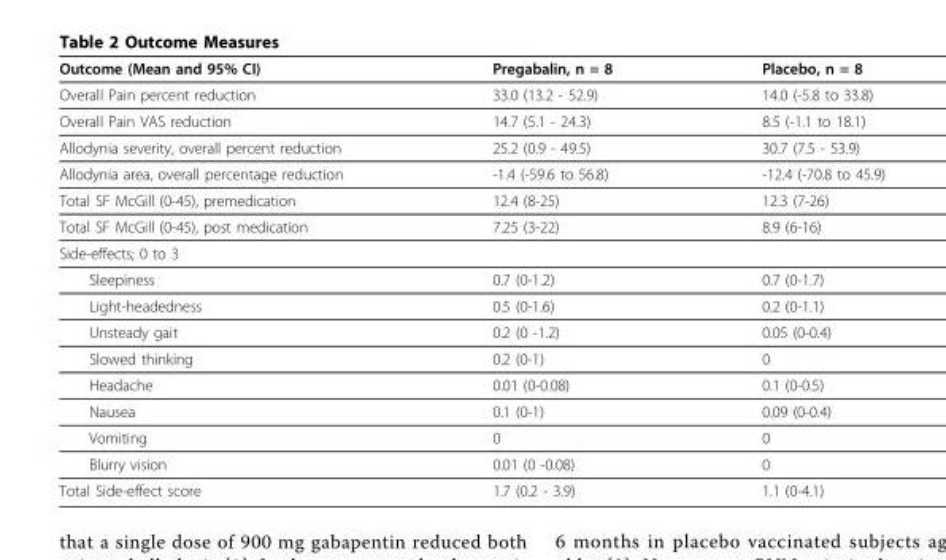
<table><thead><tr><td>Outcome (Mean and 95% CI)</td><td>Pregabalin, n = 8</td><td>Placebo, n = 8</td></tr></thead><tbody><tr><td>Overall Pain percent reduction</td><td>33.0 (13.2 - 52.9)</td><td>14.0 (-5.8 to 33.8)</td></tr><tr><td>Overall Pain VAS reduction</td><td>14.7 (5.1 - 24.3)</td><td>8.5 (-1.1 to 18.1)</td></tr><tr><td>Allodynia severity, overall percent reduction</td><td>25.2 (0.9 - 49.5)</td><td>30.7 (7.5 - 53.9)</td></tr><tr><td>Allodynia area, overall percentage reduction</td><td>-1.4 (-59.6 to 56.8)</td><td>-12.4 (-70.8 to 45.9)</td></tr><tr><td>Total SF McGill (0-45), premedication</td><td>12.4 (8-25)</td><td>12.3 (7-26)</td></tr><tr><td>Total SF McGill (0-45), post medication</td><td>7.25 (3-22)</td><td>8.9 (6-16)</td></tr><tr><td colspan="3">Side-effects; 0 to 3</td></tr><tr><td>Sleepiness</td><td>0.7 (0-1.2)</td><td>0.7 (0-1.7)</td></tr><tr><td>Light-headedness</td><td>0.5 (0-1.6)</td><td>0.2 (0-1.1)</td></tr><tr><td>Unsteady gait</td><td>0.2 (0 -1.2)</td><td>0.05 (0-0.4)</td></tr><tr><td>Slowed thinking</td><td>0.2 (0-1)</td><td>0</td></tr><tr><td>Headache</td><td>0.01 (0-0.08)</td><td>0.1 (0-0.5)</td></tr><tr><td>Nausea</td><td>0.1 (0-1)</td><td>0.09 (0-0.4)</td></tr><tr><td>Vomiting</td><td>0</td><td>0</td></tr><tr><td>Blurry vision</td><td>0.01 (0 -0.08)</td><td>0</td></tr><tr><td>Total Side-effect score</td><td>1.7 (0.2 - 3.9)</td><td>1.1 (0-4.1)</td></tr></tbody></table>